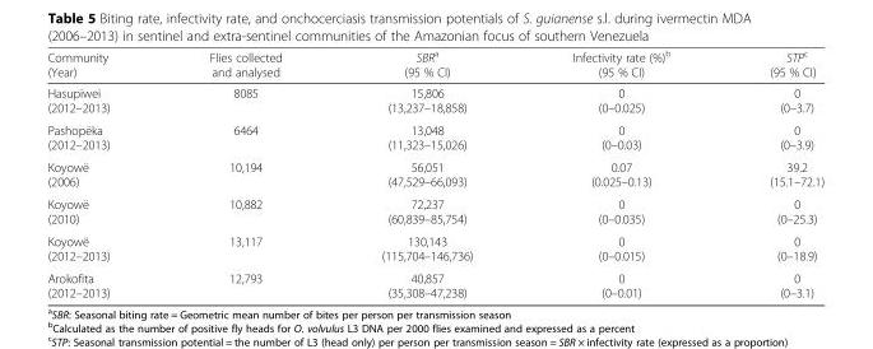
<table><thead><tr><td>Community (Year)</td><td>Flies collected and analysed</td><td>SBR<sup>a</sup> (95 % CI)</td><td>Infectivity rate (%)<sup>b</sup> (95 % CI)</td><td>STP<sup>c</sup> (95 % CI)</td></tr></thead><tbody><tr><td>Hasupiwei (2012–2013)</td><td>8085</td><td>15,806 (13,237–18,858)</td><td>0 (0–0.025)</td><td>0 (0–3.7)</td></tr><tr><td>Pashopëka (2012–2013)</td><td>6464</td><td>13,048 (11,323–15,026)</td><td>0 (0–0.03)</td><td>0 (0–3.9)</td></tr><tr><td>Koyowë (2006)</td><td>10,194</td><td>56,051 (47,529–66,093)</td><td>0.07 (0.025–0.13)</td><td>39.2 (15.1–72.1)</td></tr><tr><td>Koyowë (2010)</td><td>10,882</td><td>72,237 (60,839–85,754)</td><td>0 (0–0.035)</td><td>0 (0–25.3)</td></tr><tr><td>Koyowë (2012–2013)</td><td>13,117</td><td>130,143 (115,704–146,736)</td><td>0 (0–0.015)</td><td>0 (0–18.9)</td></tr><tr><td>Arokofita (2012–2013)</td><td>12,793</td><td>40,857 (35,308–47,238)</td><td>0 (0–0.01)</td><td>0 (0–3.1)</td></tr></tbody></table>